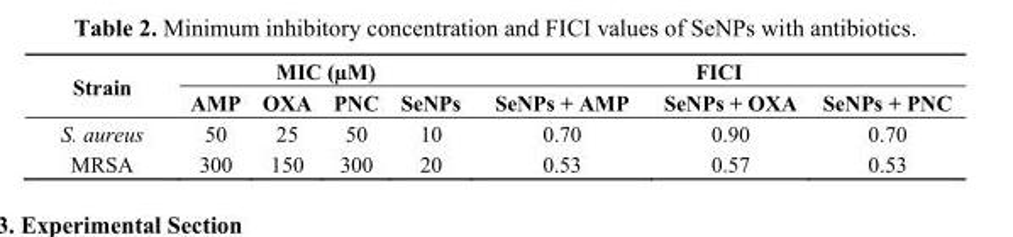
<table><thead><tr><td rowspan="2">Strain</td><td colspan="4">MIC (µM)</td><td colspan="3">FICI</td></tr><tr><td>AMP</td><td>OXA</td><td>PNC</td><td>SeNPs</td><td>SeNPs + AMP</td><td>SeNPs + OXA</td><td>SeNPs + PNC</td></tr></thead><tbody><tr><td>S. aureus</td><td>50</td><td>25</td><td>50</td><td>10</td><td>0.70</td><td>0.90</td><td>0.70</td></tr><tr><td>MRSA</td><td>300</td><td>150</td><td>300</td><td>20</td><td>0.53</td><td>0.57</td><td>0.53</td></tr></tbody></table>